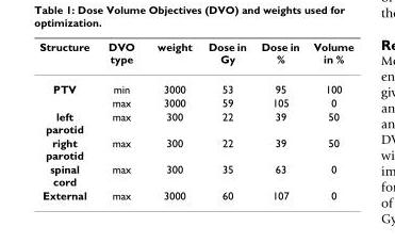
<table><thead><tr><td>Structure</td><td>DVO type</td><td>weight</td><td>Dose in Gy</td><td>Dose in %</td><td>Volume in %</td></tr></thead><tbody><tr><td rowspan="2">PTV</td><td>min</td><td>3000</td><td>53</td><td>95</td><td>100</td></tr><tr><td>max</td><td>3000</td><td>59</td><td>105</td><td>0</td></tr><tr><td>left parotid</td><td>max</td><td>300</td><td>22</td><td>39</td><td>50</td></tr><tr><td>right parotid</td><td>max</td><td>300</td><td>22</td><td>39</td><td>50</td></tr><tr><td>spinal cord</td><td>max</td><td>300</td><td>35</td><td>63</td><td>0</td></tr><tr><td>External</td><td>max</td><td>3000</td><td>60</td><td>107</td><td>0</td></tr></tbody></table>